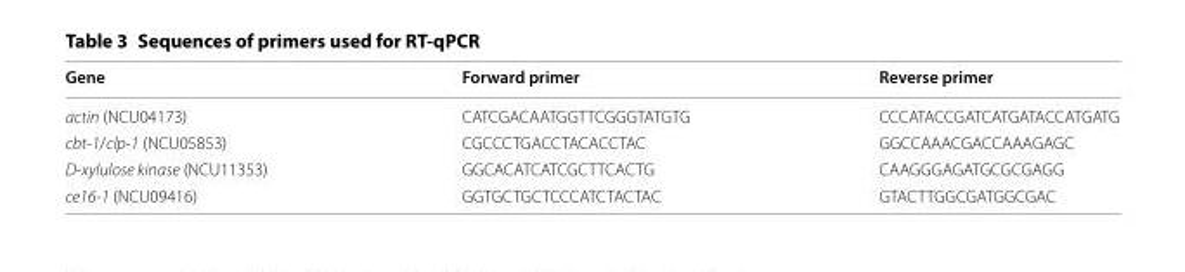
<table><thead><tr><td>Gene</td><td>Forward primer</td><td>Reverse primer</td></tr></thead><tbody><tr><td>actin (NCU04173)</td><td>CATCGACAATGGTTCGGGTATGTG</td><td>CCCATACCGATCATGATACCATGATG</td></tr><tr><td>cbt-1/clp-1 (NCU05853)</td><td>CGCCCTGACCTACACCTAC</td><td>GGCCAAACGACCAAAGAGC</td></tr><tr><td>D-xylulose kinase (NCU11353)</td><td>GGCACATCATCGCTTCACTG</td><td>CAAGGGAGATGCGCGAGG</td></tr><tr><td>ce16-1 (NCU09416)</td><td>GGTGCTGCTCCCATCTACTAC</td><td>GTACTTGGCGATGGCGAC</td></tr></tbody></table>